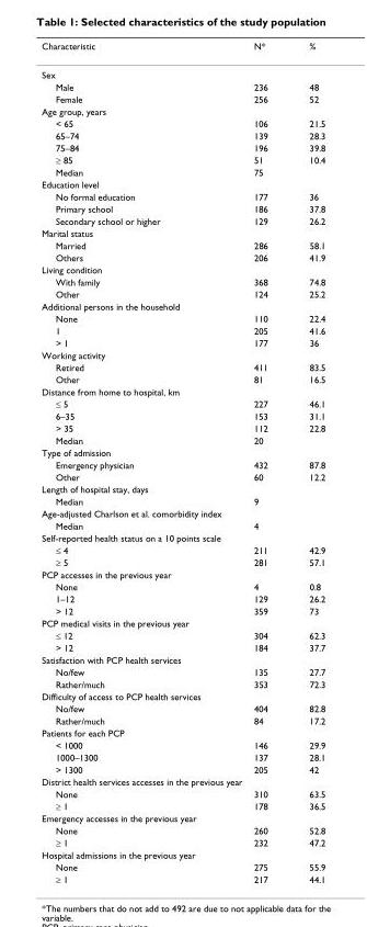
<table><thead><tr><td>Characteristic</td><td>N*</td><td>%</td></tr></thead><tbody><tr><td colspan="3">Sex</td></tr><tr><td>Male</td><td>236</td><td>48</td></tr><tr><td>Female</td><td>256</td><td>52</td></tr><tr><td colspan="3">Age group, years</td></tr><tr><td>&lt; 65</td><td>106</td><td>21.5</td></tr><tr><td>65–74</td><td>139</td><td>28.3</td></tr><tr><td>75–84</td><td>196</td><td>39.8</td></tr><tr><td>≥ 85</td><td>51</td><td>10.4</td></tr><tr><td>Median</td><td>75</td><td></td></tr><tr><td colspan="3">Education level</td></tr><tr><td>No formal education</td><td>177</td><td>36</td></tr><tr><td>Primary school</td><td>186</td><td>37.8</td></tr><tr><td>Secondary school or higher</td><td>129</td><td>26.2</td></tr><tr><td colspan="3">Marital status</td></tr><tr><td>Married</td><td>286</td><td>58.1</td></tr><tr><td>Others</td><td>206</td><td>41.9</td></tr><tr><td colspan="3">Living condition</td></tr><tr><td>With family</td><td>368</td><td>74.8</td></tr><tr><td>Other</td><td>124</td><td>25.2</td></tr><tr><td colspan="3">Additional persons in the household</td></tr><tr><td>None</td><td>110</td><td>22.4</td></tr><tr><td>1</td><td>205</td><td>41.6</td></tr><tr><td>&gt; 1</td><td>177</td><td>36</td></tr><tr><td colspan="3">Working activity</td></tr><tr><td>Retired</td><td>411</td><td>83.5</td></tr><tr><td>Other</td><td>81</td><td>16.5</td></tr><tr><td colspan="3">Distance from home to hospital, km</td></tr><tr><td>≤ 5</td><td>227</td><td>46.1</td></tr><tr><td>6–35</td><td>153</td><td>31.1</td></tr><tr><td>&gt; 35</td><td>112</td><td>22.8</td></tr><tr><td>Median</td><td>20</td><td></td></tr><tr><td colspan="3">Type of admission</td></tr><tr><td>Emergency physician</td><td>432</td><td>87.8</td></tr><tr><td>Other</td><td>60</td><td>12.2</td></tr><tr><td colspan="3">Length of hospital stay, days</td></tr><tr><td>Median</td><td>9</td><td></td></tr><tr><td colspan="3">Age-adjusted Charlson et al. comorbidity index</td></tr><tr><td>Median</td><td>4</td><td></td></tr><tr><td colspan="3">Self-reported health status on a 10 points scale</td></tr><tr><td>≤ 4</td><td>211</td><td>42.9</td></tr><tr><td>≥ 5</td><td>281</td><td>57.1</td></tr><tr><td colspan="3">PCP accesses in the previous year</td></tr><tr><td>None</td><td>4</td><td>0.8</td></tr><tr><td>1–12</td><td>129</td><td>26.2</td></tr><tr><td>&gt; 12</td><td>359</td><td>73</td></tr><tr><td colspan="3">PCP medical visits in the previous year</td></tr><tr><td>≤ 12</td><td>304</td><td>62.3</td></tr><tr><td>&gt; 12</td><td>184</td><td>37.7</td></tr><tr><td colspan="3">Satisfaction with PCP health services</td></tr><tr><td>No/few</td><td>135</td><td>27.7</td></tr><tr><td>Rather/much</td><td>353</td><td>72.3</td></tr><tr><td colspan="3">Difficulty of access to PCP health services</td></tr><tr><td>No/few</td><td>404</td><td>82.8</td></tr><tr><td>Rather/much</td><td>84</td><td>17.2</td></tr><tr><td colspan="3">Patients for each PCP</td></tr><tr><td>&lt; 1000</td><td>146</td><td>29.9</td></tr><tr><td>1000–1300</td><td>137</td><td>28.1</td></tr><tr><td>&gt; 1300</td><td>205</td><td>42</td></tr><tr><td colspan="3">District health services accesses in the previous year</td></tr><tr><td>None</td><td>310</td><td>63.5</td></tr><tr><td>≥ 1</td><td>178</td><td>36.5</td></tr><tr><td colspan="3">Emergency accesses in the previous year</td></tr><tr><td>None</td><td>260</td><td>52.8</td></tr><tr><td>≥ 1</td><td>232</td><td>47.2</td></tr><tr><td colspan="3">Hospital admissions in the previous year</td></tr><tr><td>None</td><td>275</td><td>55.9</td></tr><tr><td>≥ 1</td><td>217</td><td>44.1</td></tr></tbody></table>